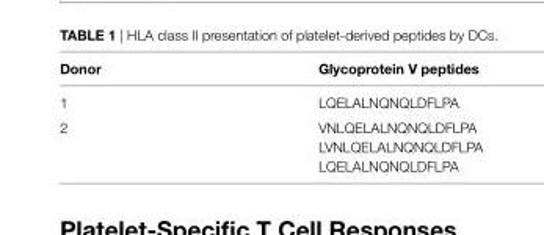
<table><thead><tr><td>Donor</td><td>glycoprotein V peptides</td></tr></thead><tbody><tr><td>1</td><td>LQELALNQNQLDFLPA</td></tr><tr><td>2</td><td>VNLQELALNQNQLDFLPA LVNLQELALNQNQLDFLPA LQELALNQNQLDFLPA</td></tr></tbody></table>